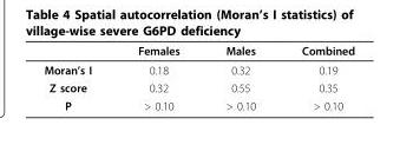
<table><thead><tr><td></td><td>Females</td><td>Males</td><td>Combined</td></tr></thead><tbody><tr><td>Moran’s I</td><td>0.18</td><td>0.32</td><td>0.19</td></tr><tr><td>Z score</td><td>0.32</td><td>0.55</td><td>0.35</td></tr><tr><td>P</td><td>&gt; 0.10</td><td>&gt; 0.10</td><td>&gt; 0.10</td></tr></tbody></table>